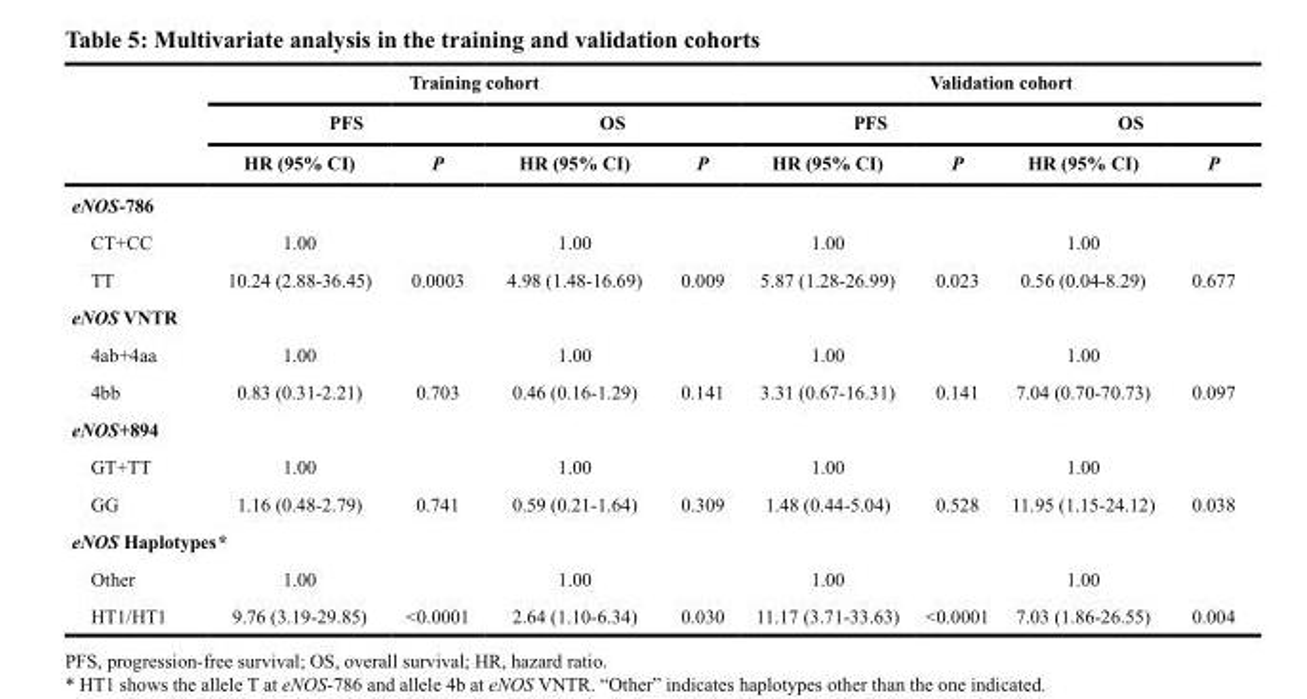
<table><thead><tr><td rowspan="3"></td><td colspan="4">Training cohort</td><td colspan="4">Validation cohort</td></tr><tr><td colspan="2">PFS</td><td colspan="2">OS</td><td colspan="2">PFS</td><td colspan="2">OS</td></tr><tr><td>HR (95% CI)</td><td>P</td><td>HR (95% CI)</td><td>P</td><td>HR (95% CI)</td><td>P</td><td>HR (95% CI)</td><td>P</td></tr></thead><tbody><tr><td colspan="9">eNOS-786</td></tr><tr><td>CT+CC</td><td>1.00</td><td></td><td>1.00</td><td></td><td>1.00</td><td></td><td>1.00</td><td></td></tr><tr><td>TT</td><td>10.24 (2.88-36.45)</td><td>0.0003</td><td>4.98 (1.48-16.69)</td><td>0.009</td><td>5.87 (1.28-26.99)</td><td>0.023</td><td>0.56 (0.04-8.29)</td><td>0.677</td></tr><tr><td colspan="9">eNOS VNTR</td></tr><tr><td>4ab+4aa</td><td>1.00</td><td></td><td>1.00</td><td></td><td>1.00</td><td></td><td>1.00</td><td></td></tr><tr><td>4bb</td><td>0.83 (0.31-2.21)</td><td>0.703</td><td>0.46 (0.16-1.29)</td><td>0.141</td><td>3.31 (0.67-16.31)</td><td>0.141</td><td>7.04 (0.70-70.73)</td><td>0.097</td></tr><tr><td colspan="9">eNOS+894</td></tr><tr><td>GT+TT</td><td>1.00</td><td></td><td>1.00</td><td></td><td>1.00</td><td></td><td>1.00</td><td></td></tr><tr><td>GG</td><td>1.16 (0.48-2.79)</td><td>0.741</td><td>0.59 (0.21-1.64)</td><td>0.309</td><td>1.48 (0.44-5.04)</td><td>0.528</td><td>11.95 (1.15-24.12)</td><td>0.038</td></tr><tr><td colspan="9">eNOS Haplotypes*</td></tr><tr><td>Other</td><td>1.00</td><td></td><td>1.00</td><td></td><td>1.00</td><td></td><td>1.00</td><td></td></tr><tr><td>HT1/HT1</td><td>9.76 (3.19-29.85)</td><td>&lt;0.0001</td><td>2.64 (1.10-6.34)</td><td>0.030</td><td>11.17 (3.71-33.63)</td><td>&lt;0.0001</td><td>7.03 (1.86-26.55)</td><td>0.004</td></tr></tbody></table>